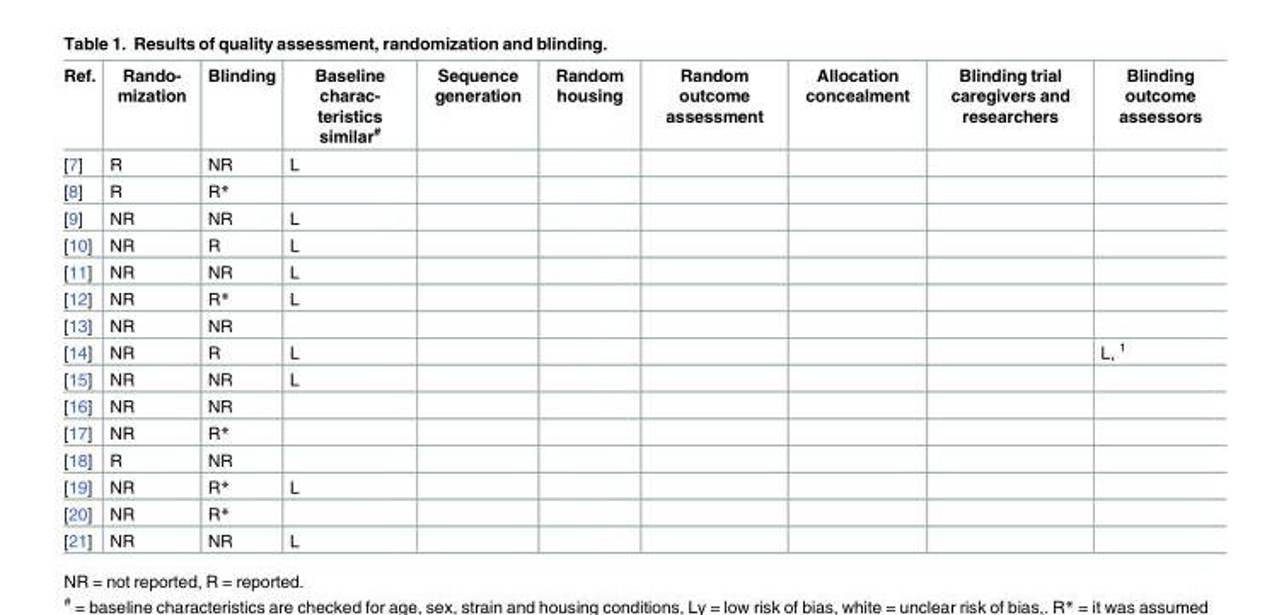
<table><thead><tr><td>Ref.</td><td>Rando- mization</td><td>Blinding</td><td>Baseline charac- teristics similar<sup>#</sup></td><td>Sequence generation</td><td>Random housing</td><td>Random outcome assessment</td><td>Allocation concealment</td><td>Blinding trial caregivers and researchers</td><td>Blinding outcome assessors</td></tr></thead><tbody><tr><td>[7]</td><td>R</td><td>NR</td><td>L</td><td></td><td></td><td></td><td></td><td></td><td></td></tr><tr><td>[8]</td><td>R</td><td>R*</td><td></td><td></td><td></td><td></td><td></td><td></td><td></td></tr><tr><td>[9]</td><td>NR</td><td>NR</td><td>L</td><td></td><td></td><td></td><td></td><td></td><td></td></tr><tr><td>[10]</td><td>NR</td><td>R</td><td>L</td><td></td><td></td><td></td><td></td><td></td><td></td></tr><tr><td>[11]</td><td>NR</td><td>NR</td><td>L</td><td></td><td></td><td></td><td></td><td></td><td></td></tr><tr><td>[12]</td><td>NR</td><td>R*</td><td>L</td><td></td><td></td><td></td><td></td><td></td><td></td></tr><tr><td>[13]</td><td>NR</td><td>NR</td><td></td><td></td><td></td><td></td><td></td><td></td><td></td></tr><tr><td>[14]</td><td>NR</td><td>R</td><td>L</td><td></td><td></td><td></td><td></td><td></td><td>L, <sup>1</sup></td></tr><tr><td>[15]</td><td>NR</td><td>NR</td><td>L</td><td></td><td></td><td></td><td></td><td></td><td></td></tr><tr><td>[16]</td><td>NR</td><td>NR</td><td></td><td></td><td></td><td></td><td></td><td></td><td></td></tr><tr><td>[17]</td><td>NR</td><td>R*</td><td></td><td></td><td></td><td></td><td></td><td></td><td></td></tr><tr><td>[18]</td><td>R</td><td>NR</td><td></td><td></td><td></td><td></td><td></td><td></td><td></td></tr><tr><td>[19]</td><td>NR</td><td>R*</td><td>L</td><td></td><td></td><td></td><td></td><td></td><td></td></tr><tr><td>[20]</td><td>NR</td><td>R*</td><td></td><td></td><td></td><td></td><td></td><td></td><td></td></tr><tr><td>[21]</td><td>NR</td><td>NR</td><td>L</td><td></td><td></td><td></td><td></td><td></td><td></td></tr></tbody></table>